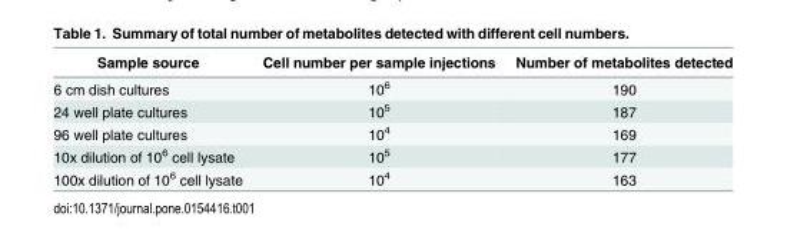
<table><thead><tr><td>Sample source</td><td>Cell number per sample injections</td><td>Number of metabolites detected</td></tr></thead><tbody><tr><td>6 cm dish cultures</td><td>10<sup>6</sup></td><td>190</td></tr><tr><td>24 well plate cultures</td><td>10<sup>5</sup></td><td>187</td></tr><tr><td>96 well plate cultures</td><td>10<sup>4</sup></td><td>169</td></tr><tr><td>10x dilution of 10<sup>6</sup> cell lysate</td><td>10<sup>5</sup></td><td>177</td></tr><tr><td>100x dilution of 10<sup>6</sup> cell lysate</td><td>10<sup>4</sup></td><td>163</td></tr></tbody></table>